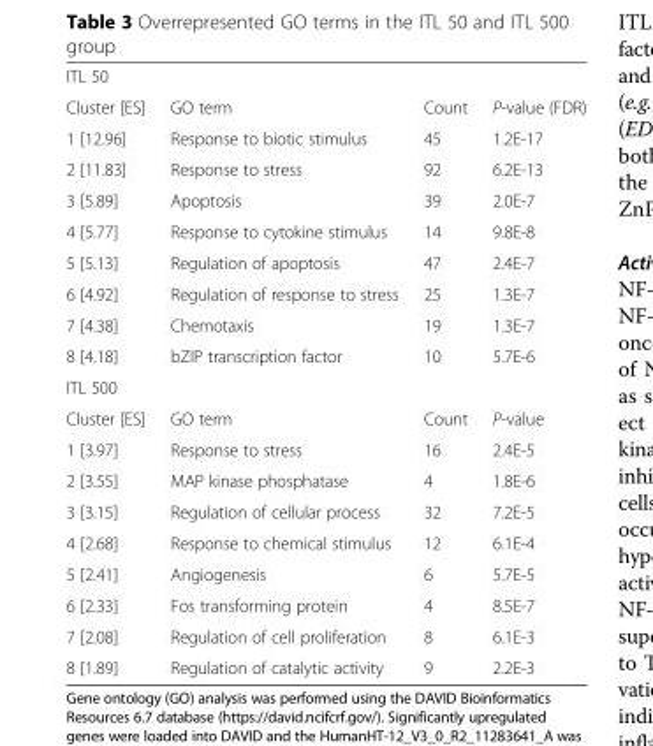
<table><tbody><tr><td colspan="4">ITL 50</td></tr><tr><td>Cluster [ES]</td><td>GO term</td><td>Count</td><td>P-value (FDR)</td></tr><tr><td>1 [12.96]</td><td>Response to biotic stimulus</td><td>45</td><td>1.2E-17</td></tr><tr><td>2 [11.83]</td><td>Response to stress</td><td>92</td><td>6.2E-13</td></tr><tr><td>3 [5.89]</td><td>Apoptosis</td><td>39</td><td>2.0E-7</td></tr><tr><td>4 [5.77]</td><td>Response to cytokine stimulus</td><td>14</td><td>9.8E-8</td></tr><tr><td>5 [5.13]</td><td>Regulation of apoptosis</td><td>47</td><td>2.4E-7</td></tr><tr><td>6 [4.92]</td><td>Regulation of response to stress</td><td>25</td><td>1.3E-7</td></tr><tr><td>7 [4.38]</td><td>Chemotaxis</td><td>19</td><td>1.3E-7</td></tr><tr><td>8 [4.18]</td><td>bZIP transcription factor</td><td>10</td><td>5.7E-6</td></tr><tr><td colspan="4">ITL 500</td></tr><tr><td>Cluster [ES]</td><td>GO term</td><td>Count</td><td>P-value</td></tr><tr><td>1 [3.97]</td><td>Response to stress</td><td>16</td><td>2.4E-5</td></tr><tr><td>2 [3.55]</td><td>MAP kinase phosphatase</td><td>4</td><td>1.8E-6</td></tr><tr><td>3 [3.15]</td><td>Regulation of cellular process</td><td>32</td><td>7.2E-5</td></tr><tr><td>4 [2.68]</td><td>Response to chemical stimulus</td><td>12</td><td>6.1E-4</td></tr><tr><td>5 [2.41]</td><td>Angiogenesis</td><td>6</td><td>5.7E-5</td></tr><tr><td>6 [2.33]</td><td>Fos transforming protein</td><td>4</td><td>8.5E-7</td></tr><tr><td>7 [2.08]</td><td>Regulation of cell proliferation</td><td>8</td><td>6.1E-3</td></tr><tr><td>8 [1.89]</td><td>Regulation of catalytic activity</td><td>9</td><td>2.2E-3</td></tr></tbody></table>